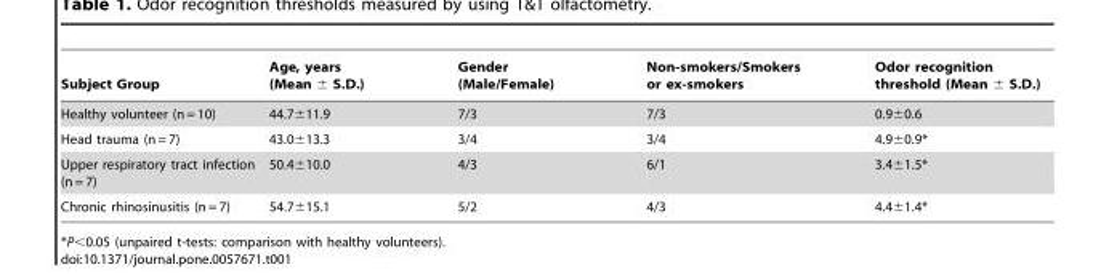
<table><thead><tr><td>Subject Group</td><td>Age, years (Mean ± S.D.)</td><td>Gender (Male/Female)</td><td>Non-smokers/Smokers or ex-smokers</td><td>Odor recognition threshold (Mean ± S.D.)</td></tr></thead><tbody><tr><td>Healthy volunteer (n = 10)</td><td>44.7±11.9</td><td>7/3</td><td>7/3</td><td>0.9±0.6</td></tr><tr><td>Head trauma (n = 7)</td><td>43.0±13.3</td><td>3/4</td><td>3/4</td><td>4.9±0.9*</td></tr><tr><td>Upper respiratory tract infection (n = 7)</td><td>50.4±10.0</td><td>4/3</td><td>6/1</td><td>3.4±1.5*</td></tr><tr><td>Chronic rhinosinusitis (n = 7)</td><td>54.7±15.1</td><td>5/2</td><td>4/3</td><td>4.4±1.4*</td></tr></tbody></table>